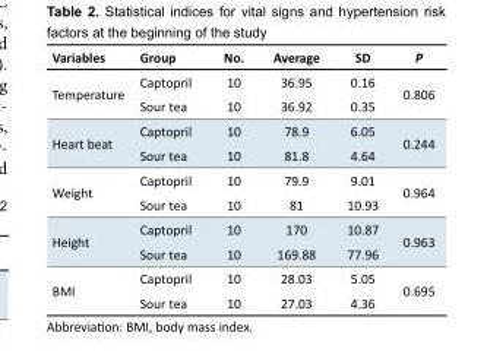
<table><tbody><tr><td>Variables</td><td>Group</td><td>No.</td><td>Average</td><td>SD</td><td>P</td></tr><tr><td rowspan="2">Temperature</td><td>Captopril</td><td>10</td><td>36.95</td><td>0.16</td><td rowspan="2">0.806</td></tr><tr><td>Sour tea</td><td>10</td><td>36.92</td><td>0.35</td></tr><tr><td rowspan="2">Heart beat</td><td>Captopril</td><td>10</td><td>78.9</td><td>6.05</td><td rowspan="2">0.244</td></tr><tr><td>Sour tea</td><td>10</td><td>81.8</td><td>4.64</td></tr><tr><td rowspan="2">Weight</td><td>Captopril</td><td>10</td><td>79.9</td><td>9.01</td><td rowspan="2">0.964</td></tr><tr><td>Sour tea</td><td>10</td><td>81</td><td>10.93</td></tr><tr><td rowspan="2">Height</td><td>Captopril</td><td>10</td><td>170</td><td>10.87</td><td rowspan="2">0.963</td></tr><tr><td>Sour tea</td><td>10</td><td>169.88</td><td>77.96</td></tr><tr><td rowspan="2">BMI</td><td>Captopril</td><td>10</td><td>28.03</td><td>5.05</td><td rowspan="2">0.695</td></tr><tr><td>Sour tea</td><td>10</td><td>27.03</td><td>4.36</td></tr></tbody></table>